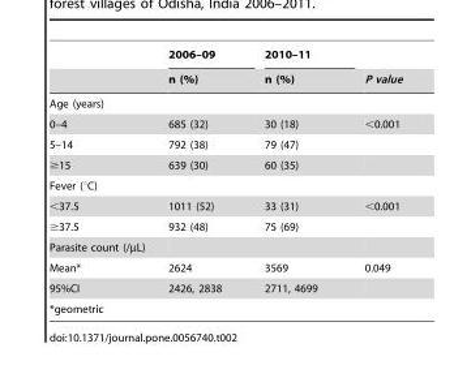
<table><thead><tr><td rowspan="2"></td><td rowspan="2">2006–09 n (%)</td><td rowspan="2">2010–11 n (%)</td><td rowspan="2">P value</td></tr><tr></tr></thead><tbody><tr><td colspan="4">Age (years)</td></tr><tr><td>0–4</td><td>685 (32)</td><td>30 (18)</td><td>&lt;0.001</td></tr><tr><td>5–14</td><td>792 (38)</td><td>79 (47)</td><td></td></tr><tr><td>≥15</td><td>639 (30)</td><td>60 (35)</td><td></td></tr><tr><td colspan="4">Fever (°C)</td></tr><tr><td>&lt;37.5</td><td>1011 (52)</td><td>33 (31)</td><td>&lt;0.001</td></tr><tr><td>≥37.5</td><td>932 (48)</td><td>75 (69)</td><td></td></tr><tr><td colspan="4">Parasite count (/µL)</td></tr><tr><td>Mean*</td><td>2624</td><td>3569</td><td>0.049</td></tr><tr><td>95%CI</td><td>2426, 2838</td><td>2711, 4699</td><td></td></tr><tr><td>*geometric</td><td></td><td></td><td></td></tr></tbody></table>